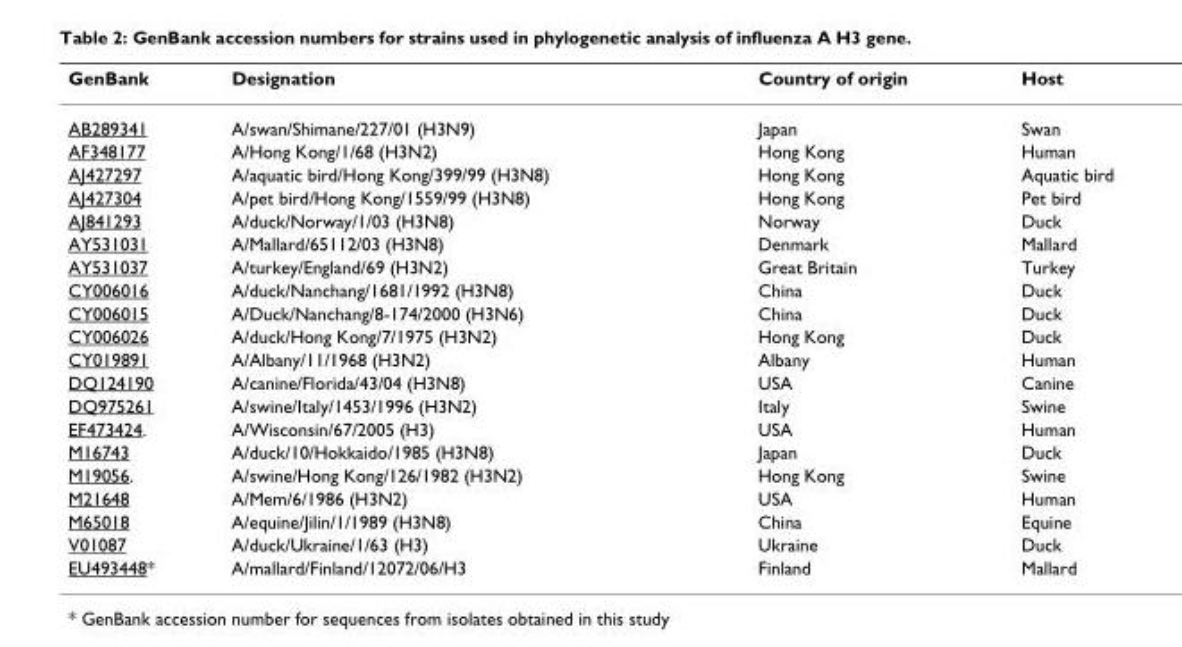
<table><thead><tr><td>GenBank</td><td>Designation</td><td>Country of origin</td><td>Host</td></tr></thead><tbody><tr><td>AB289341</td><td>A/swan/Shimane/227/01 (H3N9)</td><td>Japan</td><td>Swan</td></tr><tr><td>AF348177</td><td>A/Hong Kong/1/68 (H3N2)</td><td>Hong Kong</td><td>Human</td></tr><tr><td>AJ427297</td><td>A/aquatic bird/Hong Kong/399/99 (H3N8)</td><td>Hong Kong</td><td>Aquatic bird</td></tr><tr><td>AJ427304</td><td>A/pet bird/Hong Kong/1559/99 (H3N8)</td><td>Hong Kong</td><td>Pet bird</td></tr><tr><td>AJ841293</td><td>A/duck/Norway/1/03 (H3N8)</td><td>Norway</td><td>Duck</td></tr><tr><td>AY531031</td><td>A/Mallard/65112/03 (H3N8)</td><td>Denmark</td><td>Mallard</td></tr><tr><td>AY531037</td><td>A/turkey/England/69 (H3N2)</td><td>Great Britain</td><td>Turkey</td></tr><tr><td>CY006016</td><td>A/duck/Nanchang/1681/1992 (H3N8)</td><td>China</td><td>Duck</td></tr><tr><td>CY006015</td><td>A/Duck/Nanchang/8-174/2000 (H3N6)</td><td>China</td><td>Duck</td></tr><tr><td>CY006026</td><td>A/duck/Hong Kong/7/1975 (H3N2)</td><td>Hong Kong</td><td>Duck</td></tr><tr><td>CY019891</td><td>A/Albany/11/1968 (H3N2)</td><td>Albany</td><td>Human</td></tr><tr><td>DQ124190</td><td>A/canine/Florida/43/04 (H3N8)</td><td>USA</td><td>Canine</td></tr><tr><td>DQ975261</td><td>A/swine/Italy/1453/1996 (H3N2)</td><td>Italy</td><td>Swine</td></tr><tr><td>EF473424.</td><td>A/Wisconsin/67/2005 (H3)</td><td>USA</td><td>Human</td></tr><tr><td>M16743</td><td>A/duck/10/Hokkaido/1985 (H3N8)</td><td>Japan</td><td>Duck</td></tr><tr><td>M19056.</td><td>A/swine/Hong Kong/126/1982 (H3N2)</td><td>Hong Kong</td><td>Swine</td></tr><tr><td>M21648</td><td>A/Mem/6/1986 (H3N2)</td><td>USA</td><td>Human</td></tr><tr><td>M65018</td><td>A/equine/Jilin/1/1989 (H3N8)</td><td>China</td><td>Equine</td></tr><tr><td>V01087</td><td>A/duck/Ukraine/1/63 (H3)</td><td>Ukraine</td><td>Duck</td></tr><tr><td>EU493448*</td><td>A/mallard/Finland/12072/06/H3</td><td>Finland</td><td>Mallard</td></tr></tbody></table>